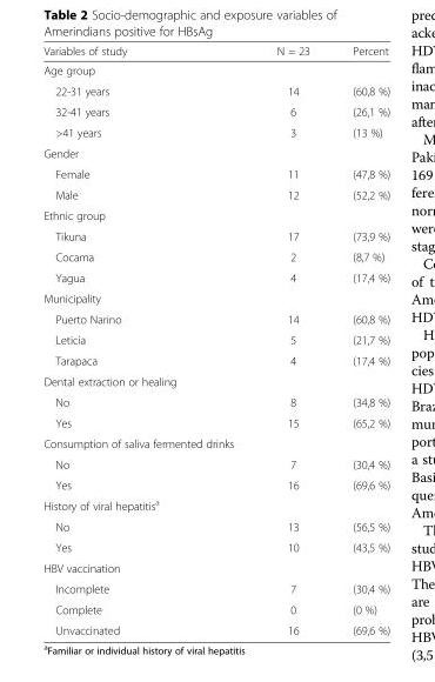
<table><thead><tr><td>Variables of study</td><td>N = 23</td><td>Percent</td></tr></thead><tbody><tr><td colspan="3">Age group</td></tr><tr><td>22-31 years</td><td>14</td><td>(60,8 %)</td></tr><tr><td>32-41 years</td><td>6</td><td>(26,1 %)</td></tr><tr><td>&gt;41 years</td><td>3</td><td>(13 %)</td></tr><tr><td colspan="3">Gender</td></tr><tr><td>Female</td><td>11</td><td>(47,8 %)</td></tr><tr><td>Male</td><td>12</td><td>(52,2 %)</td></tr><tr><td colspan="3">Ethnic group</td></tr><tr><td>Tikuna</td><td>17</td><td>(73,9 %)</td></tr><tr><td>Cocama</td><td>2</td><td>(8,7 %)</td></tr><tr><td>Yagua</td><td>4</td><td>(17,4 %)</td></tr><tr><td colspan="3">Municipality</td></tr><tr><td>Puerto Narino</td><td>14</td><td>(60,8 %)</td></tr><tr><td>Leticia</td><td>5</td><td>(21,7 %)</td></tr><tr><td>Tarapaca</td><td>4</td><td>(17,4 %)</td></tr><tr><td colspan="3">Dental extraction or healing</td></tr><tr><td>No</td><td>8</td><td>(34,8 %)</td></tr><tr><td>Yes</td><td>15</td><td>(65,2 %)</td></tr><tr><td colspan="3">Consumption of saliva fermented drinks</td></tr><tr><td>No</td><td>7</td><td>(30,4 %)</td></tr><tr><td>Yes</td><td>16</td><td>(69,6 %)</td></tr><tr><td colspan="3">History of viral hepatitis<sup>a</sup></td></tr><tr><td>No</td><td>13</td><td>(56,5 %)</td></tr><tr><td>Yes</td><td>10</td><td>(43,5 %)</td></tr><tr><td colspan="3">HBV vaccination</td></tr><tr><td>Incomplete</td><td>7</td><td>(30,4 %)</td></tr><tr><td>Complete</td><td>0</td><td>(0 %)</td></tr><tr><td>Unvaccinated</td><td>16</td><td>(69,6 %)</td></tr></tbody></table>